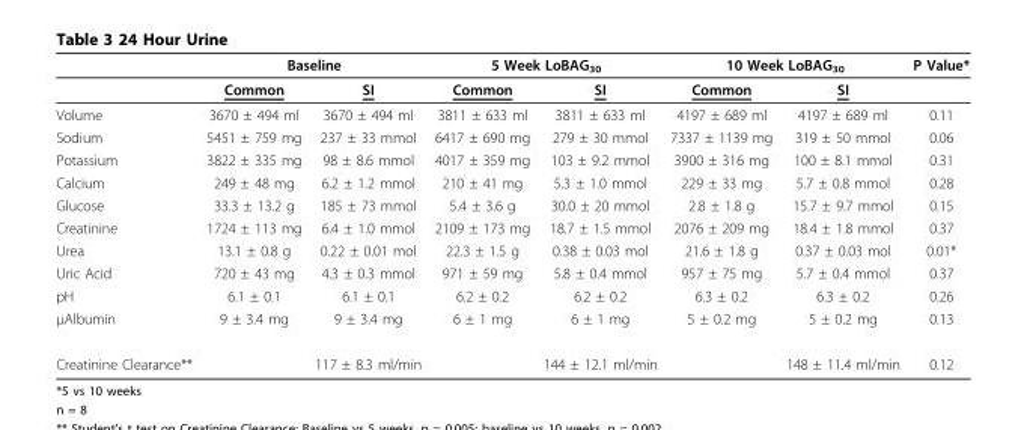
<table><thead><tr><td rowspan="2"></td><td colspan="2">Baseline</td><td colspan="2">5 Week LoBAG<sub>30</sub></td><td colspan="2">10 Week LoBAG<sub>30</sub></td><td rowspan="2">P Value*</td></tr><tr><td>Common</td><td>SI</td><td>Common</td><td>SI</td><td>Common</td><td>SI</td></tr></thead><tbody><tr><td>Volume</td><td>3670 ± 494 ml</td><td>3670 ± 494 ml</td><td>3811 ± 633 ml</td><td>3811 ± 633 ml</td><td>4197 ± 689 ml</td><td>4197 ± 689 ml</td><td>0.11</td></tr><tr><td>Sodium</td><td>5451 ± 759 mg</td><td>237 ± 33 mmol</td><td>6417 ± 690 mg</td><td>279 ± 30 mmol</td><td>7337 ± 1139 mg</td><td>319 ± 50 mmol</td><td>0.06</td></tr><tr><td>Potassium</td><td>3822 ± 335 mg</td><td>98 ± 8.6 mmol</td><td>4017 ± 359 mg</td><td>103 ± 9.2 mmol</td><td>3900 ± 316 mg</td><td>100 ± 8.1 mmol</td><td>0.31</td></tr><tr><td>Calcium</td><td>249 ± 48 mg</td><td>6.2 ± 1.2 mmol</td><td>210 ± 41 mg</td><td>5.3 ± 1.0 mmol</td><td>229 ± 33 mg</td><td>5.7 ± 0.8 mmol</td><td>0.28</td></tr><tr><td>Glucose</td><td>33.3 ± 13.2 g</td><td>185 ± 73 mmol</td><td>5.4 ± 3.6 g</td><td>30.0 ± 20 mmol</td><td>2.8 ± 1.8 g</td><td>15.7 ± 9.7 mmol</td><td>0.15</td></tr><tr><td>Creatinine</td><td>1724 ± 113 mg</td><td>6.4 ± 1.0 mmol</td><td>2109 ± 173 mg</td><td>18.7 ± 1.5 mmol</td><td>2076 ± 209 mg</td><td>18.4 ± 1.8 mmol</td><td>0.37</td></tr><tr><td>Urea</td><td>13.1 ± 0.8 g</td><td>0.22 ± 0.01 mol</td><td>22.3 ± 1.5 g</td><td>0.38 ± 0.03 mol</td><td>21.6 ± 1.8 g</td><td>0.37 ± 0.03 mol</td><td>0.01*</td></tr><tr><td>Uric Acid</td><td>720 ± 43 mg</td><td>4.3 ± 0.3 mmol</td><td>971 ± 59 mg</td><td>5.8 ± 0.4 mmol</td><td>957 ± 75 mg</td><td>5.7 ± 0.4 mmol</td><td>0.37</td></tr><tr><td>pH</td><td>6.1 ± 0.1</td><td>6.1 ± 0.1</td><td>6.2 ± 0.2</td><td>6.2 ± 0.2</td><td>6.3 ± 0.2</td><td>6.3 ± 0.2</td><td>0.26</td></tr><tr><td>μAlbumin</td><td>9 ± 3.4 mg</td><td>9 ± 3.4 mg</td><td>6 ± 1 mg</td><td>6 ± 1 mg</td><td>5 ± 0.2 mg</td><td>5 ± 0.2 mg</td><td>0.13</td></tr><tr><td>Creatinine Clearance**</td><td></td><td>117 ± 8.3 ml/min</td><td></td><td>144 ± 12.1 ml/min</td><td></td><td>148 ± 11.4 ml/min</td><td>0.12</td></tr></tbody></table>